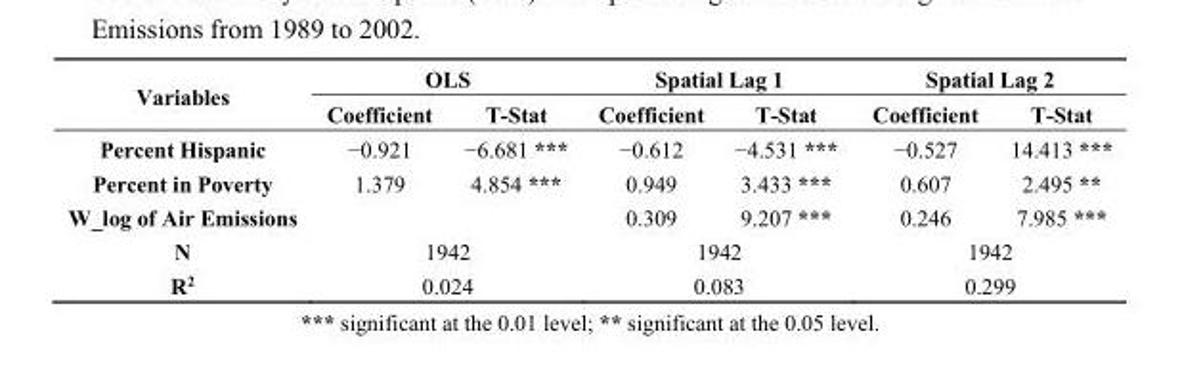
<table><thead><tr><td rowspan="2">Variables</td><td colspan="2">OLS</td><td colspan="2">Spatial Lag 1</td><td colspan="2">Spatial Lag 2</td></tr><tr><td>Coefficient</td><td>T-Stat</td><td>Coefficient</td><td>T-Stat</td><td>Coefficient</td><td>T-Stat</td></tr></thead><tbody><tr><td>Percent Hispanic</td><td>−0.921</td><td>−6.681 ***</td><td>−0.612</td><td>−4.531 ***</td><td>−0.527</td><td>14.413 ***</td></tr><tr><td>Percent in Poverty</td><td>1.379</td><td>4.854 ***</td><td>0.949</td><td>3.433 ***</td><td>0.607</td><td>2.495 **</td></tr><tr><td>W_log of Air Emissions</td><td></td><td></td><td>0.309</td><td>9.207 ***</td><td>0.246</td><td>7.985 ***</td></tr><tr><td>N</td><td colspan="2">1942</td><td colspan="2">1942</td><td colspan="2">1942</td></tr><tr><td>R<sup>2</sup></td><td colspan="2">0.024</td><td colspan="2">0.083</td><td colspan="2">0.299</td></tr></tbody></table>